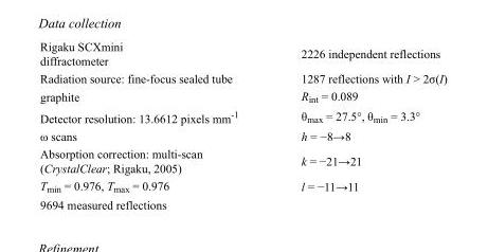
<table><tbody><tr><td>Rigaku SCXmini diffractometer</td><td>2226 independent reflections</td></tr><tr><td>Radiation source: fine-focus sealed tube</td><td>1287 reflections with I &gt; 2σ(I)</td></tr><tr><td>graphite</td><td>R<sub>int</sub> = 0.089</td></tr><tr><td>Detector resolution: 13.6612 pixels mm<sup>-1</sup></td><td>θ<sub>max</sub> = 27.5°, θ<sub>min</sub> = 3.3°</td></tr><tr><td>ω scans</td><td>h = −8→8</td></tr><tr><td>Absorption correction: multi-scan (CrystalClear; Rigaku, 2005)</td><td>k = −21→21</td></tr><tr><td>T<sub>min</sub> = 0.976, T<sub>max</sub> = 0.976</td><td>l = −11→11</td></tr><tr><td>9694 measured reflections</td><td></td></tr></tbody></table>